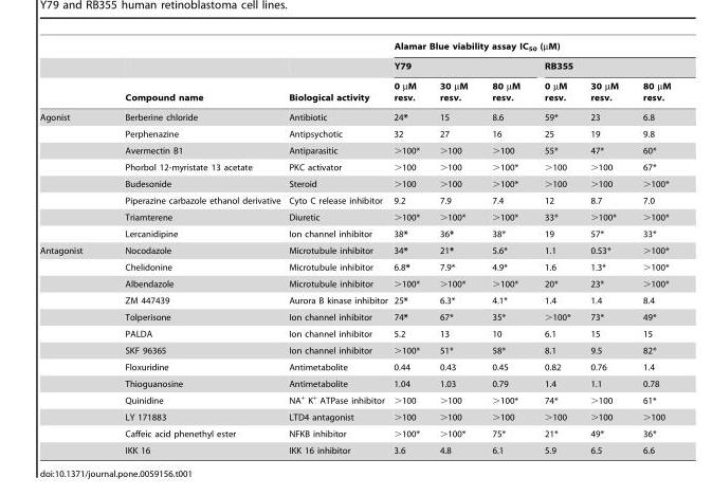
<table><thead><tr><td rowspan="3"></td><td rowspan="3">Compound name</td><td rowspan="3">Biological activity</td><td colspan="6">Alamar Blue viability assay IC<sub>50</sub> (µM)</td></tr><tr><td colspan="3">Y79</td><td colspan="3">RB355</td></tr><tr><td>0 µM resv.</td><td>30 µM resv.</td><td>80 µM resv.</td><td>0 µM resv.</td><td>30 µM resv.</td><td>80 µM resv.</td></tr></thead><tbody><tr><td rowspan="8">Agonist</td><td>Berberine chloride</td><td>Antibiotic</td><td>24*</td><td>15</td><td>8.6</td><td>59*</td><td>23</td><td>6.8</td></tr><tr><td>Perphenazine</td><td>Antipsychotic</td><td>32</td><td>27</td><td>16</td><td>25</td><td>19</td><td>9.8</td></tr><tr><td>Avermectin B1</td><td>Antiparasitic</td><td>&gt;100*</td><td>&gt;100</td><td>&gt;100</td><td>55*</td><td>47*</td><td>60*</td></tr><tr><td>Phorbol 12-myristate 13 acetate</td><td>PKC activator</td><td>&gt;100</td><td>&gt;100</td><td>&gt;100*</td><td>&gt;100</td><td>&gt;100</td><td>67*</td></tr><tr><td>Budesonide</td><td>Steroid</td><td>&gt;100</td><td>&gt;100</td><td>&gt;100*</td><td>&gt;100</td><td>&gt;100</td><td>&gt;100*</td></tr><tr><td>Piperazine carbazole ethanol derivative</td><td>Cyto C release inhibitor</td><td>9.2</td><td>7.9</td><td>7.4</td><td>12</td><td>8.7</td><td>7.0</td></tr><tr><td>Triamterene</td><td>Diuretic</td><td>&gt;100*</td><td>&gt;100*</td><td>&gt;100*</td><td>33*</td><td>&gt;100*</td><td>&gt;100*</td></tr><tr><td>Lercanidipine</td><td>Ion channel inhibitor</td><td>38*</td><td>36*</td><td>38*</td><td>19</td><td>57*</td><td>33*</td></tr><tr><td rowspan="13">Antagonist</td><td>Nocodazole</td><td>Microtubule inhibitor</td><td>34*</td><td>21*</td><td>5.6*</td><td>1.1</td><td>0.53*</td><td>&gt;100*</td></tr><tr><td>Chelidonine</td><td>Microtubule inhibitor</td><td>6.8*</td><td>7.9*</td><td>4.9*</td><td>1.6</td><td>1.3*</td><td>&gt;100*</td></tr><tr><td>Albendazole</td><td>Microtubule inhibitor</td><td>&gt;100*</td><td>&gt;100*</td><td>&gt;100*</td><td>20*</td><td>23*</td><td>&gt;100*</td></tr><tr><td>ZM 447439</td><td>Aurora B kinase inhibitor</td><td>25*</td><td>6.3*</td><td>4.1*</td><td>1.4</td><td>1.4</td><td>8.4</td></tr><tr><td>Tolperisone</td><td>Ion channel inhibitor</td><td>74*</td><td>67*</td><td>35*</td><td>&gt;100*</td><td>73*</td><td>49*</td></tr><tr><td>PALDA</td><td>Ion channel inhibitor</td><td>5.2</td><td>13</td><td>10</td><td>6.1</td><td>15</td><td>15</td></tr><tr><td>SKF 96365</td><td>Ion channel inhibitor</td><td>&gt;100*</td><td>51*</td><td>58*</td><td>8.1</td><td>9.5</td><td>82*</td></tr><tr><td>Floxuridine</td><td>Antimetabolite</td><td>0.44</td><td>0.43</td><td>0.45</td><td>0.82</td><td>0.76</td><td>1.4</td></tr><tr><td>Thioguanosine</td><td>Antimetabolite</td><td>1.04</td><td>1.03</td><td>0.79</td><td>1.4</td><td>1.1</td><td>0.78</td></tr><tr><td>Quinidine</td><td>NA<sup>+</sup> K<sup>+</sup> ATPase inhibitor</td><td>&gt;100</td><td>&gt;100</td><td>&gt;100*</td><td>74*</td><td>&gt;100</td><td>61*</td></tr><tr><td>LY 171883</td><td>LTD4 antagonist</td><td>&gt;100</td><td>&gt;100</td><td>&gt;100</td><td>&gt;100</td><td>&gt;100</td><td>&gt;100</td></tr><tr><td>Caffeic acid phenethyl ester</td><td>NFKB inhibitor</td><td>&gt;100*</td><td>&gt;100*</td><td>75*</td><td>21*</td><td>49*</td><td>36*</td></tr><tr><td>IKK 16</td><td>IKK 16 inhibitor</td><td>3.6</td><td>4.8</td><td>6.1</td><td>5.9</td><td>6.5</td><td>6.6</td></tr></tbody></table>